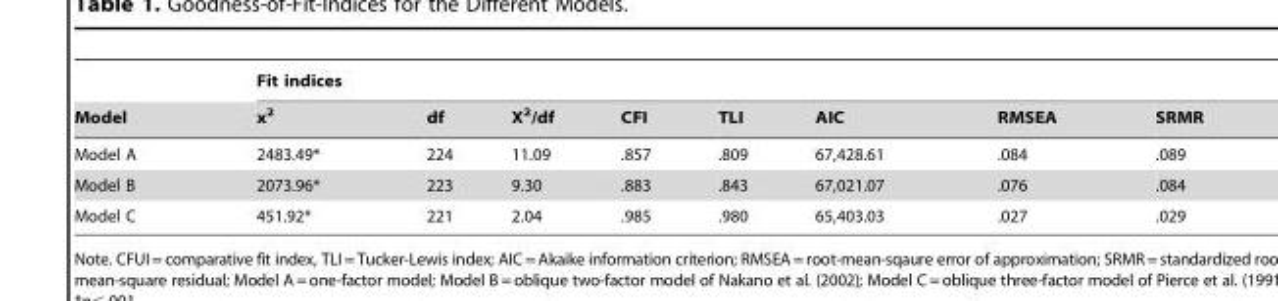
<table><thead><tr><td rowspan="2">Model</td><td colspan="8">Fit indices</td></tr><tr><td>x<sup>2</sup></td><td>df</td><td>X<sup>2</sup>/df</td><td>CFI</td><td>TLI</td><td>AIC</td><td>RMSEA</td><td>SRMR</td></tr></thead><tbody><tr><td>Model A</td><td>2483.49*</td><td>224</td><td>11.09</td><td>.857</td><td>.809</td><td>67,428.61</td><td>.084</td><td>.089</td></tr><tr><td>Model B</td><td>2073.96*</td><td>223</td><td>9.30</td><td>.883</td><td>.843</td><td>67,021.07</td><td>.076</td><td>.084</td></tr><tr><td>Model C</td><td>451.92*</td><td>221</td><td>2.04</td><td>.985</td><td>.980</td><td>65,403.03</td><td>.027</td><td>.029</td></tr></tbody></table>